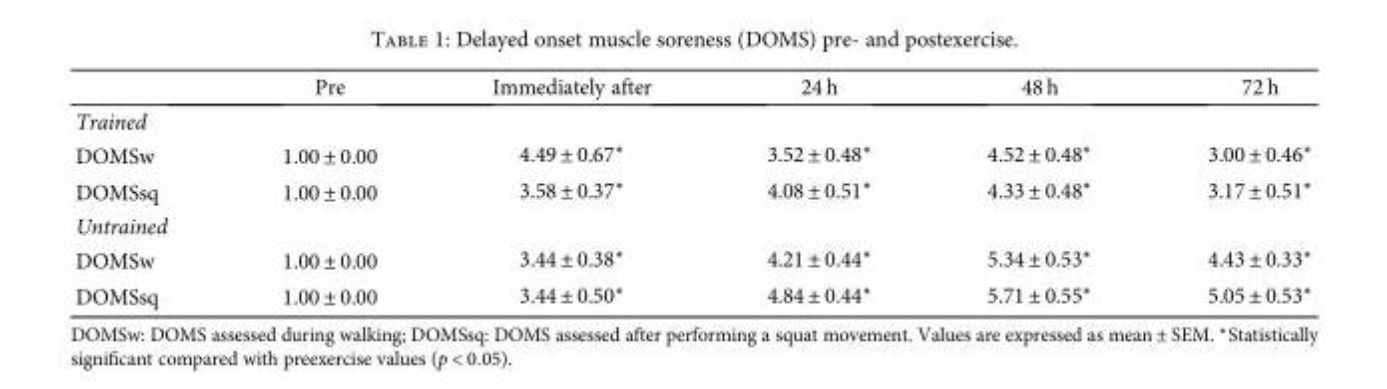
<table><thead><tr><td></td><td>Pre</td><td>Immediately after</td><td>24 h</td><td>48 h</td><td>72 h</td></tr></thead><tbody><tr><td colspan="6">Trained</td></tr><tr><td>DOMSw</td><td>1.00 ± 0.00</td><td>4.49 ± 0.67∗</td><td>3.52 ± 0.48∗</td><td>4.52 ± 0.48∗</td><td>3.00 ± 0.46∗</td></tr><tr><td>DOMSsq</td><td>1.00 ± 0.00</td><td>3.58 ± 0.37∗</td><td>4.08 ± 0.51∗</td><td>4.33 ± 0.48∗</td><td>3.17 ± 0.51∗</td></tr><tr><td colspan="6">Untrained</td></tr><tr><td>DOMSw</td><td>1.00 ± 0.00</td><td>3.44 ± 0.38∗</td><td>4.21 ± 0.44∗</td><td>5.34 ± 0.53∗</td><td>4.43 ± 0.33∗</td></tr><tr><td>DOMSsq</td><td>1.00 ± 0.00</td><td>3.44 ± 0.50∗</td><td>4.84 ± 0.44∗</td><td>5.71 ± 0.55∗</td><td>5.05 ± 0.53∗</td></tr></tbody></table>